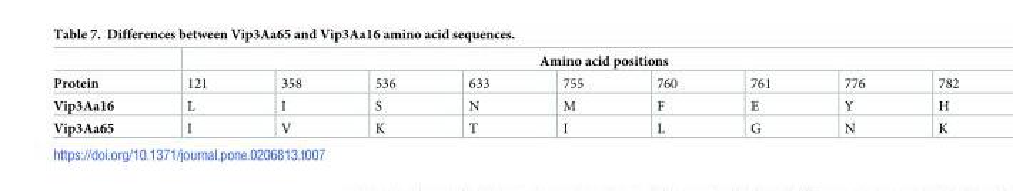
<table><thead><tr><td rowspan="2">Protein</td><td colspan="9">Amino acid positions</td></tr><tr><td>121</td><td>358</td><td>536</td><td>633</td><td>755</td><td>760</td><td>761</td><td>776</td><td>782</td></tr></thead><tbody><tr><td>Vip3Aa16</td><td>L</td><td>I</td><td>S</td><td>N</td><td>M</td><td>F</td><td>E</td><td>Y</td><td>H</td></tr><tr><td>Vip3Aa65</td><td>I</td><td>V</td><td>K</td><td>T</td><td>I</td><td>L</td><td>G</td><td>N</td><td>K</td></tr></tbody></table>